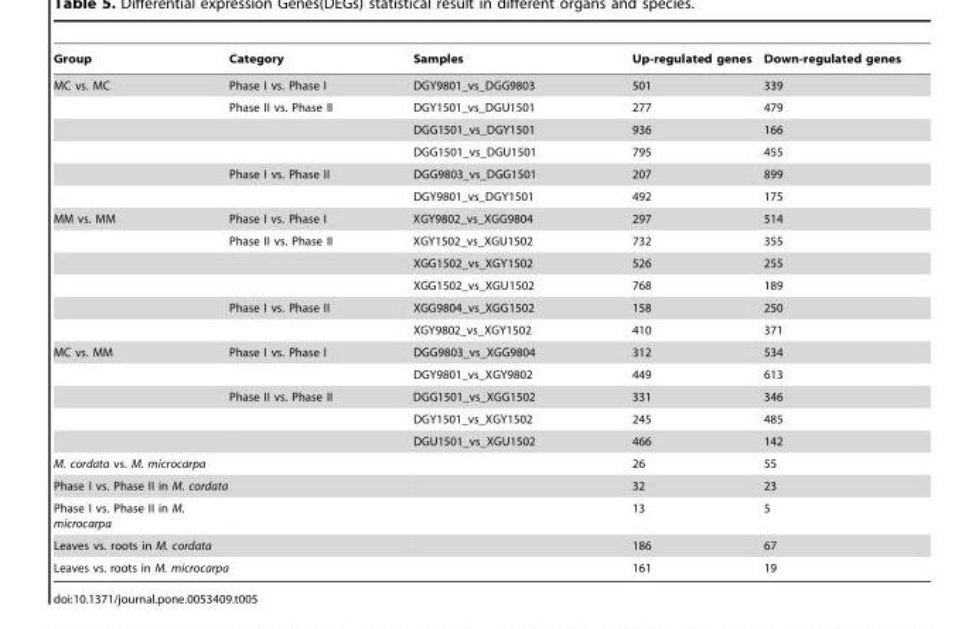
<table><thead><tr><td>Group</td><td>Category</td><td>Samples</td><td>Up-regulated genes</td><td>Down-regulated genes</td></tr></thead><tbody><tr><td rowspan="6">MC vs. MC</td><td>Phase I vs. Phase I</td><td>DGY9801_vs_DGG9803</td><td>501</td><td>339</td></tr><tr><td>Phase II vs. Phase II</td><td>DGY1501_vs_DGU1501</td><td>277</td><td>479</td></tr><tr><td></td><td>DGG1501_vs_DGY1501</td><td>936</td><td>166</td></tr><tr><td></td><td>DGG1501_vs_DGU1501</td><td>795</td><td>455</td></tr><tr><td>Phase I vs. Phase II</td><td>DGG9803_vs_DGG1501</td><td>207</td><td>899</td></tr><tr><td></td><td>DGY9801_vs_DGY1501</td><td>492</td><td>175</td></tr><tr><td rowspan="6">MM vs. MM</td><td>Phase I vs. Phase I</td><td>XGY9802_vs_XGG9804</td><td>297</td><td>514</td></tr><tr><td>Phase II vs. Phase II</td><td>XGY1502_vs_XGU1502</td><td>732</td><td>355</td></tr><tr><td></td><td>XGG1502_vs_XGY1502</td><td>526</td><td>255</td></tr><tr><td></td><td>XGG1502_vs_XGU1502</td><td>768</td><td>189</td></tr><tr><td>Phase I vs. Phase II</td><td>XGG9804_vs_XGG1502</td><td>158</td><td>250</td></tr><tr><td></td><td>XGY9802_vs_XGY1502</td><td>410</td><td>371</td></tr><tr><td rowspan="5">MC vs. MM</td><td>Phase I vs. Phase I</td><td>DGG9803_vs_XGG9804</td><td>312</td><td>534</td></tr><tr><td></td><td>DGY9801_vs_XGY9802</td><td>449</td><td>613</td></tr><tr><td>Phase II vs. Phase II</td><td>DGG1501_vs_XGG1502</td><td>331</td><td>346</td></tr><tr><td></td><td>DGY1501_vs_XGY1502</td><td>245</td><td>485</td></tr><tr><td></td><td>DGU1501_vs_XGU1502</td><td>466</td><td>142</td></tr><tr><td>M. cordata vs. M. microcarpa</td><td></td><td></td><td>26</td><td>55</td></tr><tr><td>Phase I vs. Phase II in M. cordata</td><td></td><td></td><td>32</td><td>23</td></tr><tr><td>Phase I vs. Phase II in M. microcarpa</td><td></td><td></td><td>13</td><td>5</td></tr><tr><td>Leaves vs. roots in M. cordata</td><td></td><td></td><td>186</td><td>67</td></tr><tr><td>Leaves vs. roots in M. microcarpa</td><td></td><td></td><td>161</td><td>19</td></tr></tbody></table>